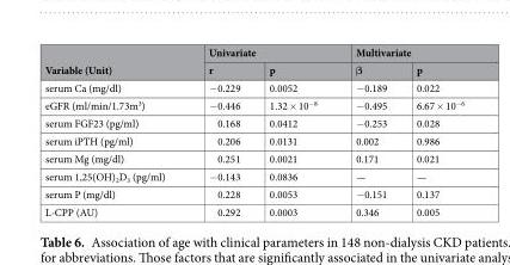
<table><thead><tr><td rowspan="2">Variable (Unit)</td><td colspan="2">Univariate</td><td colspan="2">Multivariate</td></tr><tr><td>r</td><td>p</td><td>β</td><td>p</td></tr></thead><tbody><tr><td>serum Ca (mg/dl)</td><td>−0.229</td><td>0.0052</td><td>−0.189</td><td>0.022</td></tr><tr><td>eGFR (ml/min/1.73m<sup>3</sup>)</td><td>−0.446</td><td>1.32 × 10<sup>−8</sup></td><td>−0.495</td><td>6.67 × 10<sup>−6</sup></td></tr><tr><td>serum FGF23 (pg/ml)</td><td>0.168</td><td>0.0412</td><td>−0.253</td><td>0.028</td></tr><tr><td>serum iPTH (pg/ml)</td><td>0.206</td><td>0.0131</td><td>0.002</td><td>0.986</td></tr><tr><td>serum Mg (mg/dl)</td><td>0.251</td><td>0.0021</td><td>0.171</td><td>0.021</td></tr><tr><td>serum 1,25(OH)<sub>2</sub>D<sub>3</sub> (pg/ml)</td><td>−0.143</td><td>0.0836</td><td>—</td><td>—</td></tr><tr><td>serum P (mg/dl)</td><td>0.228</td><td>0.0053</td><td>−0.151</td><td>0.137</td></tr><tr><td>L-CPP (AU)</td><td>0.292</td><td>0.0003</td><td>0.346</td><td>0.005</td></tr></tbody></table>